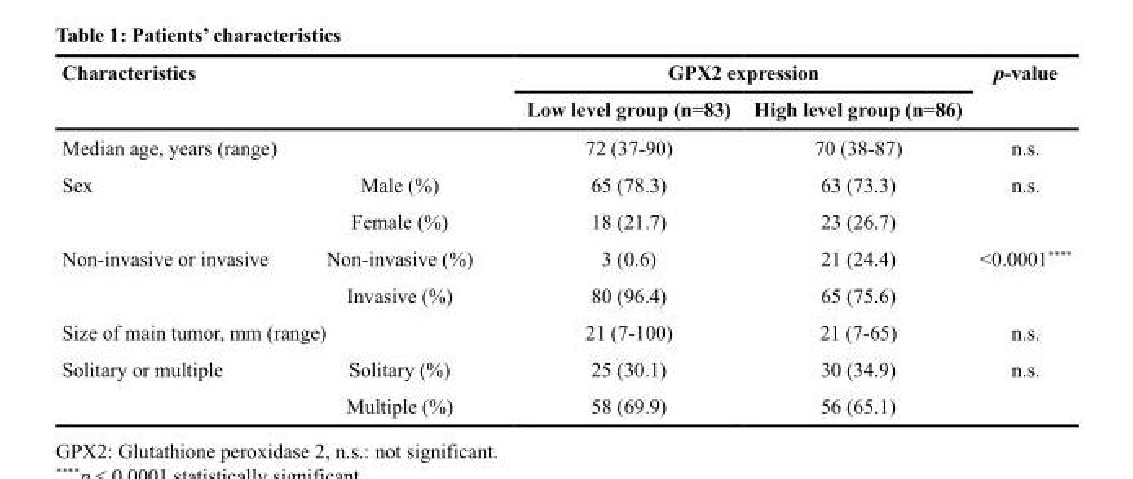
<table><thead><tr><td rowspan="3" colspan="2">Characteristics Median age, years (range)</td><td colspan="2">GPX2 expression</td><td rowspan="4">p-value n.s. n.s.</td></tr><tr><td rowspan="3">Low level group (n=83) 72 (37-90) 65 (78.3)</td><td rowspan="3">High level group (n=86) 70 (38-87) 63 (73.3)</td></tr><tr></tr><tr><td>Sex</td><td>Male (%)</td></tr></thead><tbody><tr><td></td><td>Female (%)</td><td>18 (21.7)</td><td>23 (26.7)</td><td></td></tr><tr><td rowspan="2">Non-invasive or invasive</td><td>Non-invasive (%)</td><td>3 (0.6)</td><td>21 (24.4)</td><td>&lt;0.0001****</td></tr><tr><td>Invasive (%)</td><td>80 (96.4)</td><td>65 (75.6)</td><td></td></tr><tr><td colspan="2">Size of main tumor, mm (range)</td><td>21 (7-100)</td><td>21 (7-65)</td><td>n.s.</td></tr><tr><td rowspan="2">Solitary or multiple</td><td>Solitary (%)</td><td>25 (30.1)</td><td>30 (34.9)</td><td>n.s.</td></tr><tr><td>Multiple (%)</td><td>58 (69.9)</td><td>56 (65.1)</td><td></td></tr></tbody></table>